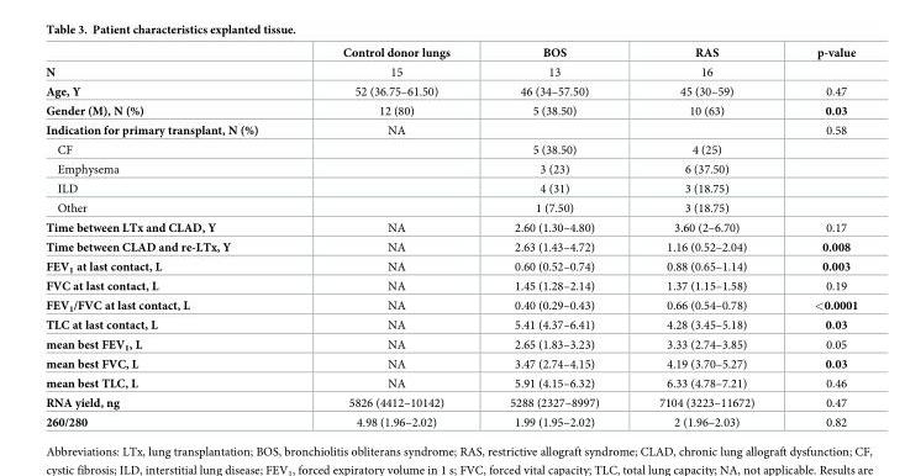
<table><thead><tr><td></td><td>Control donor lungs</td><td>BOS</td><td>RAS</td><td>p-value</td></tr></thead><tbody><tr><td>N</td><td>15</td><td>13</td><td>16</td><td></td></tr><tr><td>Age, Y</td><td>52 (36.75–61.50)</td><td>46 (34–57.50)</td><td>45 (30–59)</td><td>0.47</td></tr><tr><td>Gender (M), N (%)</td><td>12 (80)</td><td>5 (38.50)</td><td>10 (63)</td><td>0.03</td></tr><tr><td>Indication for primary transplant, N (%)</td><td>NA</td><td></td><td></td><td>0.58</td></tr><tr><td>CF</td><td></td><td>5 (38.50)</td><td>4 (25)</td><td></td></tr><tr><td>Emphysema</td><td></td><td>3 (23)</td><td>6 (37.50)</td><td></td></tr><tr><td>ILD</td><td></td><td>4 (31)</td><td>3 (18.75)</td><td></td></tr><tr><td>Other</td><td></td><td>1 (7.50)</td><td>3 (18.75)</td><td></td></tr><tr><td>Time between LTx and CLAD, Y</td><td>NA</td><td>2.60 (1.30–4.80)</td><td>3.60 (2–6.70)</td><td>0.17</td></tr><tr><td>Time between CLAD and re-LTx, Y</td><td>NA</td><td>2.63 (1.43–4.72)</td><td>1.16 (0.52–2.04)</td><td>0.008</td></tr><tr><td>FEV<sub>1</sub> at last contact, L</td><td>NA</td><td>0.60 (0.52–0.74)</td><td>0.88 (0.65–1.14)</td><td>0.003</td></tr><tr><td>FVC at last contact, L</td><td>NA</td><td>1.45 (1.28–2.14)</td><td>1.37 (1.15–1.58)</td><td>0.19</td></tr><tr><td>FEV<sub>1</sub>/FVC at last contact, L</td><td>NA</td><td>0.40 (0.29–0.43)</td><td>0.66 (0.54–0.78)</td><td>&lt;0.0001</td></tr><tr><td>TLC at last contact, L</td><td>NA</td><td>5.41 (4.37–6.41)</td><td>4.28 (3.45–5.18)</td><td>0.03</td></tr><tr><td>mean best FEV<sub>1</sub>, L</td><td>NA</td><td>2.65 (1.83–3.23)</td><td>3.33 (2.74–3.85)</td><td>0.05</td></tr><tr><td>mean best FVC, L</td><td>NA</td><td>3.47 (2.74–4.15)</td><td>4.19 (3.70–5.27)</td><td>0.03</td></tr><tr><td>mean best TLC, L</td><td>NA</td><td>5.91 (4.15–6.32)</td><td>6.33 (4.78–7.21)</td><td>0.46</td></tr><tr><td>RNA yield, ng</td><td>5826 (4412–10142)</td><td>5288 (2327–8997)</td><td>7104 (3223–11672)</td><td>0.47</td></tr><tr><td>260/280</td><td>4.98 (1.96–2.02)</td><td>1.99 (1.95–2.02)</td><td>2 (1.96–2.03)</td><td>0.82</td></tr></tbody></table>